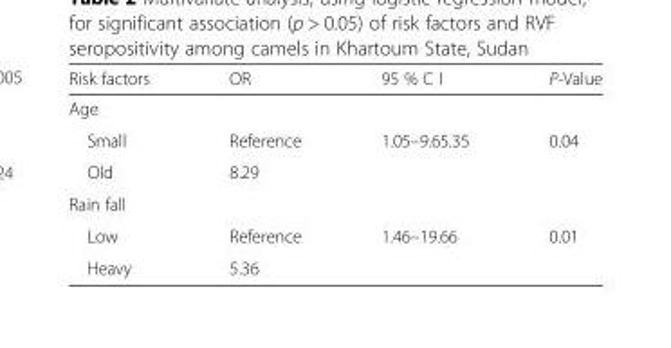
<table><thead><tr><td>Risk factors</td><td>OR</td><td>95 % C I</td><td>P-Value</td></tr></thead><tbody><tr><td colspan="4">Age</td></tr><tr><td>Small</td><td>Reference</td><td rowspan="2">1.05–9.65.35</td><td rowspan="2">0.04</td></tr><tr><td>Old</td><td>8.29</td></tr><tr><td colspan="4">Rain fall</td></tr><tr><td>Low</td><td>Reference</td><td rowspan="2">1.46–19.66</td><td rowspan="2">0.01</td></tr><tr><td>Heavy</td><td>5.36</td></tr></tbody></table>